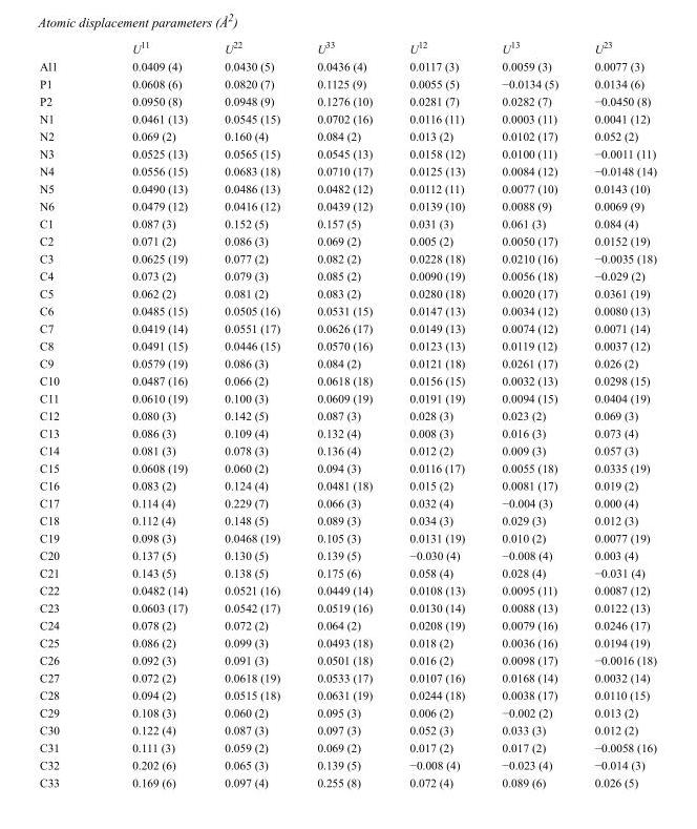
<table><thead><tr><td></td><td>U<sup>11</sup></td><td>U<sup>22</sup></td><td>U<sup>33</sup></td><td>U<sup>12</sup></td><td>U<sup>13</sup></td><td>U<sup>23</sup></td></tr></thead><tbody><tr><td>Al1</td><td>0.0409 (4)</td><td>0.0430 (5)</td><td>0.0436 (4)</td><td>0.0117 (3)</td><td>0.0059 (3)</td><td>0.0077 (3)</td></tr><tr><td>P1</td><td>0.0608 (6)</td><td>0.0820 (7)</td><td>0.1125 (9)</td><td>0.0055 (5)</td><td>−0.0134 (5)</td><td>0.0134 (6)</td></tr><tr><td>P2</td><td>0.0950 (8)</td><td>0.0948 (9)</td><td>0.1276 (10)</td><td>0.0281 (7)</td><td>0.0282 (7)</td><td>−0.0450 (8)</td></tr><tr><td>N1</td><td>0.0461 (13)</td><td>0.0545 (15)</td><td>0.0702 (16)</td><td>0.0116 (11)</td><td>0.0003 (11)</td><td>0.0041 (12)</td></tr><tr><td>N2</td><td>0.069 (2)</td><td>0.160 (4)</td><td>0.084 (2)</td><td>0.013 (2)</td><td>0.0102 (17)</td><td>0.052 (2)</td></tr><tr><td>N3</td><td>0.0525 (13)</td><td>0.0565 (15)</td><td>0.0545 (13)</td><td>0.0158 (12)</td><td>0.0100 (11)</td><td>−0.0011 (11)</td></tr><tr><td>N4</td><td>0.0556 (15)</td><td>0.0683 (18)</td><td>0.0710 (17)</td><td>0.0125 (13)</td><td>0.0084 (12)</td><td>−0.0148 (14)</td></tr><tr><td>N5</td><td>0.0490 (13)</td><td>0.0486 (13)</td><td>0.0482 (12)</td><td>0.0112 (11)</td><td>0.0077 (10)</td><td>0.0143 (10)</td></tr><tr><td>N6</td><td>0.0479 (12)</td><td>0.0416 (12)</td><td>0.0439 (12)</td><td>0.0139 (10)</td><td>0.0088 (9)</td><td>0.0069 (9)</td></tr><tr><td>C1</td><td>0.087 (3)</td><td>0.152 (5)</td><td>0.157 (5)</td><td>0.031 (3)</td><td>0.061 (3)</td><td>0.084 (4)</td></tr><tr><td>C2</td><td>0.071 (2)</td><td>0.086 (3)</td><td>0.069 (2)</td><td>0.005 (2)</td><td>0.0050 (17)</td><td>0.0152 (19)</td></tr><tr><td>C3</td><td>0.0625 (19)</td><td>0.077 (2)</td><td>0.082 (2)</td><td>0.0228 (18)</td><td>0.0210 (16)</td><td>−0.0035 (18)</td></tr><tr><td>C4</td><td>0.073 (2)</td><td>0.079 (3)</td><td>0.085 (2)</td><td>0.0090 (19)</td><td>0.0056 (18)</td><td>−0.029 (2)</td></tr><tr><td>C5</td><td>0.062 (2)</td><td>0.081 (2)</td><td>0.083 (2)</td><td>0.0280 (18)</td><td>0.0020 (17)</td><td>0.0361 (19)</td></tr><tr><td>C6</td><td>0.0485 (15)</td><td>0.0505 (16)</td><td>0.0531 (15)</td><td>0.0147 (13)</td><td>0.0034 (12)</td><td>0.0080 (13)</td></tr><tr><td>C7</td><td>0.0419 (14)</td><td>0.0551 (17)</td><td>0.0626 (17)</td><td>0.0149 (13)</td><td>0.0074 (12)</td><td>0.0071 (14)</td></tr><tr><td>C8</td><td>0.0491 (15)</td><td>0.0446 (15)</td><td>0.0570 (16)</td><td>0.0123 (13)</td><td>0.0119 (12)</td><td>0.0037 (12)</td></tr><tr><td>C9</td><td>0.0579 (19)</td><td>0.086 (3)</td><td>0.084 (2)</td><td>0.0121 (18)</td><td>0.0261 (17)</td><td>0.026 (2)</td></tr><tr><td>C10</td><td>0.0487 (16)</td><td>0.066 (2)</td><td>0.0618 (18)</td><td>0.0156 (15)</td><td>0.0032 (13)</td><td>0.0298 (15)</td></tr><tr><td>C11</td><td>0.0610 (19)</td><td>0.100 (3)</td><td>0.0609 (19)</td><td>0.0191 (19)</td><td>0.0094 (15)</td><td>0.0404 (19)</td></tr><tr><td>C12</td><td>0.080 (3)</td><td>0.142 (5)</td><td>0.087 (3)</td><td>0.028 (3)</td><td>0.023 (2)</td><td>0.069 (3)</td></tr><tr><td>C13</td><td>0.086 (3)</td><td>0.109 (4)</td><td>0.132 (4)</td><td>0.008 (3)</td><td>0.016 (3)</td><td>0.073 (4)</td></tr><tr><td>C14</td><td>0.081 (3)</td><td>0.078 (3)</td><td>0.136 (4)</td><td>0.012 (2)</td><td>0.009 (3)</td><td>0.057 (3)</td></tr><tr><td>C15</td><td>0.0608 (19)</td><td>0.060 (2)</td><td>0.094 (3)</td><td>0.0116 (17)</td><td>0.0055 (18)</td><td>0.0335 (19)</td></tr><tr><td>C16</td><td>0.083 (2)</td><td>0.124 (4)</td><td>0.0481 (18)</td><td>0.015 (2)</td><td>0.0081 (17)</td><td>0.019 (2)</td></tr><tr><td>C17</td><td>0.114 (4)</td><td>0.229 (7)</td><td>0.066 (3)</td><td>0.032 (4)</td><td>−0.004 (3)</td><td>0.000 (4)</td></tr><tr><td>C18</td><td>0.112 (4)</td><td>0.148 (5)</td><td>0.089 (3)</td><td>0.034 (3)</td><td>0.029 (3)</td><td>0.012 (3)</td></tr><tr><td>C19</td><td>0.098 (3)</td><td>0.0468 (19)</td><td>0.105 (3)</td><td>0.0131 (19)</td><td>0.010 (2)</td><td>0.0077 (19)</td></tr><tr><td>C20</td><td>0.137 (5)</td><td>0.130 (5)</td><td>0.139 (5)</td><td>−0.030 (4)</td><td>−0.008 (4)</td><td>0.003 (4)</td></tr><tr><td>C21</td><td>0.143 (5)</td><td>0.138 (5)</td><td>0.175 (6)</td><td>0.058 (4)</td><td>0.028 (4)</td><td>−0.031 (4)</td></tr><tr><td>C22</td><td>0.0482 (14)</td><td>0.0521 (16)</td><td>0.0449 (14)</td><td>0.0108 (13)</td><td>0.0095 (11)</td><td>0.0087 (12)</td></tr><tr><td>C23</td><td>0.0603 (17)</td><td>0.0542 (17)</td><td>0.0519 (16)</td><td>0.0130 (14)</td><td>0.0088 (13)</td><td>0.0122 (13)</td></tr><tr><td>C24</td><td>0.078 (2)</td><td>0.072 (2)</td><td>0.064 (2)</td><td>0.0208 (19)</td><td>0.0079 (16)</td><td>0.0246 (17)</td></tr><tr><td>C25</td><td>0.086 (2)</td><td>0.099 (3)</td><td>0.0493 (18)</td><td>0.018 (2)</td><td>0.0036 (16)</td><td>0.0194 (19)</td></tr><tr><td>C26</td><td>0.092 (3)</td><td>0.091 (3)</td><td>0.0501 (18)</td><td>0.016 (2)</td><td>0.0098 (17)</td><td>−0.0016 (18)</td></tr><tr><td>C27</td><td>0.072 (2)</td><td>0.0618 (19)</td><td>0.0533 (17)</td><td>0.0107 (16)</td><td>0.0168 (14)</td><td>0.0032 (14)</td></tr><tr><td>C28</td><td>0.094 (2)</td><td>0.0515 (18)</td><td>0.0631 (19)</td><td>0.0244 (18)</td><td>0.0038 (17)</td><td>0.0110 (15)</td></tr><tr><td>C29</td><td>0.108 (3)</td><td>0.060 (2)</td><td>0.095 (3)</td><td>0.006 (2)</td><td>−0.002 (2)</td><td>0.013 (2)</td></tr><tr><td>C30</td><td>0.122 (4)</td><td>0.087 (3)</td><td>0.097 (3)</td><td>0.052 (3)</td><td>0.033 (3)</td><td>0.012 (2)</td></tr><tr><td>C31</td><td>0.111 (3)</td><td>0.059 (2)</td><td>0.069 (2)</td><td>0.017 (2)</td><td>0.017 (2)</td><td>−0.0058 (16)</td></tr><tr><td>C32</td><td>0.202 (6)</td><td>0.065 (3)</td><td>0.139 (5)</td><td>−0.008 (4)</td><td>−0.023 (4)</td><td>−0.014 (3)</td></tr><tr><td>C33</td><td>0.169 (6)</td><td>0.097 (4)</td><td>0.255 (8)</td><td>0.072 (4)</td><td>0.089 (6)</td><td>0.026 (5)</td></tr></tbody></table>